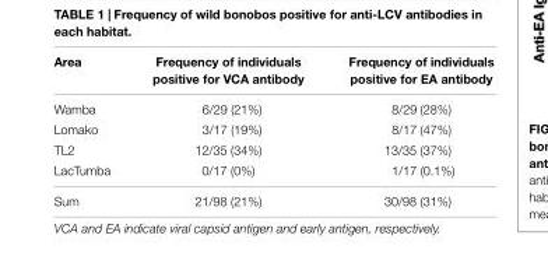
<table><thead><tr><td>Area</td><td>Frequency of individuals positive for VCA antibody</td><td>Frequency of individuals positive for EA antibody</td></tr></thead><tbody><tr><td>Wamba</td><td>6/29 (21%)</td><td>8/29 (28%)</td></tr><tr><td>Lomako</td><td>3/17 (19%)</td><td>8/17 (47%)</td></tr><tr><td>TL2</td><td>12/35 (34%)</td><td>13/35 (37%)</td></tr><tr><td>LacTumba</td><td>0/17 (0%)</td><td>1/17 (0.1%)</td></tr><tr><td>Sum</td><td>21/98 (21%)</td><td>30/98 (31%)</td></tr></tbody></table>